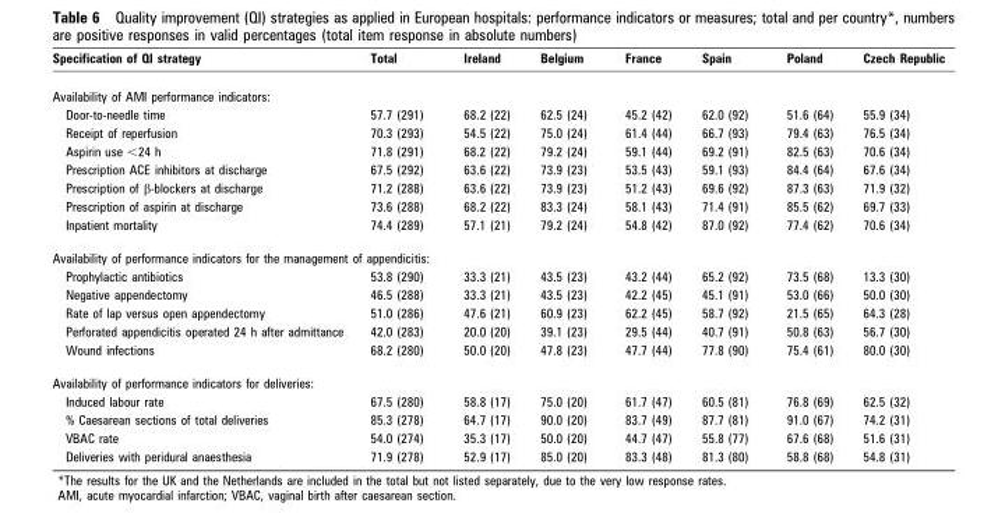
<table><thead><tr><td>Specification of QI strategy</td><td>Total</td><td>Ireland</td><td>Belgium</td><td>France</td><td>Spain</td><td>Poland</td><td>Czech Republic</td></tr></thead><tbody><tr><td colspan="8">Availability of AMI performance indicators:</td></tr><tr><td>Door-to-needle time</td><td>57.7 (291)</td><td>68.2 (22)</td><td>62.5 (24)</td><td>45.2 (42)</td><td>62.0 (92)</td><td>51.6 (64)</td><td>55.9 (34)</td></tr><tr><td>Receipt of reperfusion</td><td>70.3 (293)</td><td>54.5 (22)</td><td>75.0 (24)</td><td>61.4 (44)</td><td>66.7 (93)</td><td>79.4 (63)</td><td>76.5 (34)</td></tr><tr><td>Aspirin use &lt;24 h</td><td>71.8 (291)</td><td>68.2 (22)</td><td>79.2 (24)</td><td>59.1 (44)</td><td>69.2 (91)</td><td>82.5 (63)</td><td>70.6 (34)</td></tr><tr><td>Prescription ACE inhibitors at discharge</td><td>67.5 (292)</td><td>63.6 (22)</td><td>73.9 (23)</td><td>53.5 (43)</td><td>59.1 (93)</td><td>84.4 (64)</td><td>67.6 (34)</td></tr><tr><td>Prescription of β-blockers at discharge</td><td>71.2 (288)</td><td>63.6 (22)</td><td>73.9 (23)</td><td>51.2 (43)</td><td>69.6 (92)</td><td>87.3 (63)</td><td>71.9 (32)</td></tr><tr><td>Prescription of aspirin at discharge</td><td>73.6 (288)</td><td>68.2 (22)</td><td>83.3 (24)</td><td>58.1 (43)</td><td>71.4 (91)</td><td>85.5 (62)</td><td>69.7 (33)</td></tr><tr><td>Inpatient mortality</td><td>74.4 (289)</td><td>57.1 (21)</td><td>79.2 (24)</td><td>54.8 (42)</td><td>87.0 (92)</td><td>77.4 (62)</td><td>70.6 (34)</td></tr><tr><td colspan="8">Availability of performance indicators for the management of appendicitis:</td></tr><tr><td>Prophylactic antibiotics</td><td>53.8 (290)</td><td>33.3 (21)</td><td>43.5 (23)</td><td>43.2 (44)</td><td>65.2 (92)</td><td>73.5 (68)</td><td>13.3 (30)</td></tr><tr><td>Negative appendectomy</td><td>46.5 (288)</td><td>33.3 (21)</td><td>43.5 (23)</td><td>42.2 (45)</td><td>45.1 (91)</td><td>53.0 (66)</td><td>50.0 (30)</td></tr><tr><td>Rate of lap versus open appendectomy</td><td>51.0 (286)</td><td>47.6 (21)</td><td>60.9 (23)</td><td>62.2 (45)</td><td>58.7 (92)</td><td>21.5 (65)</td><td>64.3 (28)</td></tr><tr><td>Perforated appendicitis operated 24 h after admittance</td><td>42.0 (283)</td><td>20.0 (20)</td><td>39.1 (23)</td><td>29.5 (44)</td><td>40.7 (91)</td><td>50.8 (63)</td><td>56.7 (30)</td></tr><tr><td>Wound infections</td><td>68.2 (280)</td><td>50.0 (20)</td><td>47.8 (23)</td><td>47.7 (44)</td><td>77.8 (90)</td><td>75.4 (61)</td><td>80.0 (30)</td></tr><tr><td colspan="8">Availability of performance indicators for deliveries:</td></tr><tr><td>Induced labour rate</td><td>67.5 (280)</td><td>58.8 (17)</td><td>75.0 (20)</td><td>61.7 (47)</td><td>60.5 (81)</td><td>76.8 (69)</td><td>62.5 (32)</td></tr><tr><td>% Caesarean sections of total deliveries</td><td>85.3 (278)</td><td>64.7 (17)</td><td>90.0 (20)</td><td>83.7 (49)</td><td>87.7 (81)</td><td>91.0 (67)</td><td>74.2 (31)</td></tr><tr><td>VBAC rate</td><td>54.0 (274)</td><td>35.3 (17)</td><td>50.0 (20)</td><td>44.7 (47)</td><td>55.8 (77)</td><td>67.6 (68)</td><td>51.6 (31)</td></tr><tr><td>Deliveries with peridural anaesthesia</td><td>71.9 (278)</td><td>52.9 (17)</td><td>85.0 (20)</td><td>83.3 (48)</td><td>81.3 (80)</td><td>58.8 (68)</td><td>54.8 (31)</td></tr></tbody></table>